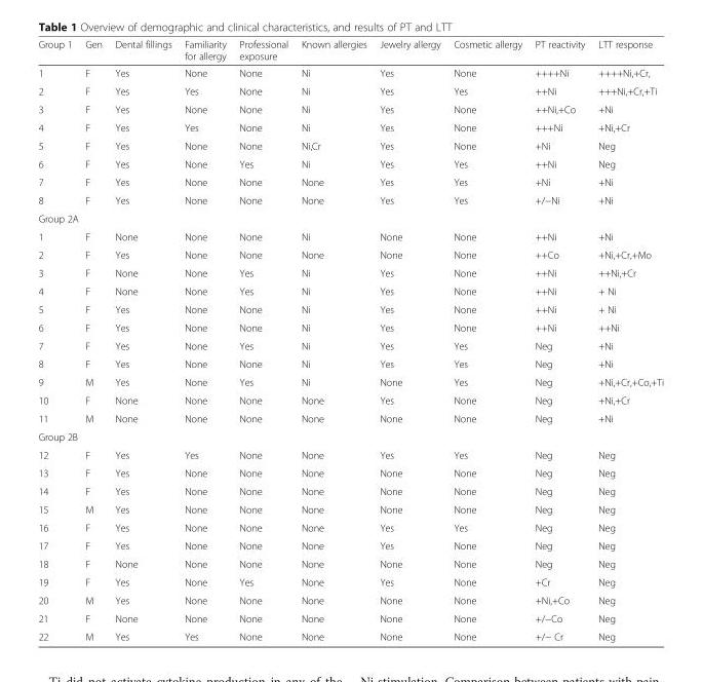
<table><thead><tr><td>Group 1</td><td>Gen</td><td>Dental fillings</td><td>Familiarity for allergy</td><td>Professional exposure</td><td>Known allergies</td><td>Jewelry allergy</td><td>Cosmetic allergy</td><td>PT reactivity</td><td>LTT response</td></tr></thead><tbody><tr><td>1</td><td>F</td><td>Yes</td><td>None</td><td>None</td><td>Ni</td><td>Yes</td><td>None</td><td>++++Ni</td><td>++++Ni,+Cr,</td></tr><tr><td>2</td><td>F</td><td>Yes</td><td>Yes</td><td>None</td><td>Ni</td><td>Yes</td><td>Yes</td><td>++Ni</td><td>+++Ni,+Cr,+Ti</td></tr><tr><td>3</td><td>F</td><td>Yes</td><td>None</td><td>None</td><td>Ni</td><td>Yes</td><td>None</td><td>++Ni,+Co</td><td>+Ni</td></tr><tr><td>4</td><td>F</td><td>Yes</td><td>Yes</td><td>None</td><td>Ni</td><td>Yes</td><td>None</td><td>+++Ni</td><td>+Ni,+Cr</td></tr><tr><td>5</td><td>F</td><td>Yes</td><td>None</td><td>None</td><td>Ni,Cr</td><td>Yes</td><td>None</td><td>+Ni</td><td>Neg</td></tr><tr><td>6</td><td>F</td><td>Yes</td><td>None</td><td>Yes</td><td>Ni</td><td>Yes</td><td>Yes</td><td>++Ni</td><td>Neg</td></tr><tr><td>7</td><td>F</td><td>Yes</td><td>None</td><td>None</td><td>None</td><td>Yes</td><td>Yes</td><td>+Ni</td><td>+Ni</td></tr><tr><td>8</td><td>F</td><td>Yes</td><td>None</td><td>None</td><td>None</td><td>Yes</td><td>Yes</td><td>+/−Ni</td><td>+Ni</td></tr><tr><td colspan="10">Group 2A</td></tr><tr><td>1</td><td>F</td><td>None</td><td>None</td><td>None</td><td>Ni</td><td>None</td><td>None</td><td>++Ni</td><td>+Ni</td></tr><tr><td>2</td><td>F</td><td>Yes</td><td>None</td><td>None</td><td>None</td><td>None</td><td>None</td><td>++Co</td><td>+Ni,+Cr,+Mo</td></tr><tr><td>3</td><td>F</td><td>None</td><td>None</td><td>Yes</td><td>Ni</td><td>Yes</td><td>None</td><td>++Ni</td><td>++Ni,+Cr</td></tr><tr><td>4</td><td>F</td><td>None</td><td>None</td><td>Yes</td><td>Ni</td><td>Yes</td><td>None</td><td>++Ni</td><td>+ Ni</td></tr><tr><td>5</td><td>F</td><td>Yes</td><td>None</td><td>None</td><td>Ni</td><td>Yes</td><td>None</td><td>++Ni</td><td>+ Ni</td></tr><tr><td>6</td><td>F</td><td>Yes</td><td>None</td><td>None</td><td>Ni</td><td>Yes</td><td>None</td><td>++Ni</td><td>++Ni</td></tr><tr><td>7</td><td>F</td><td>Yes</td><td>None</td><td>Yes</td><td>Ni</td><td>Yes</td><td>Yes</td><td>Neg</td><td>+Ni</td></tr><tr><td>8</td><td>F</td><td>Yes</td><td>None</td><td>None</td><td>Ni</td><td>Yes</td><td>Yes</td><td>Neg</td><td>+Ni</td></tr><tr><td>9</td><td>M</td><td>Yes</td><td>None</td><td>Yes</td><td>Ni</td><td>None</td><td>Yes</td><td>Neg</td><td>+Ni,+Cr,+Co,+Ti</td></tr><tr><td>10</td><td>F</td><td>None</td><td>None</td><td>None</td><td>None</td><td>Yes</td><td>None</td><td>Neg</td><td>+Ni,+Cr</td></tr><tr><td>11</td><td>M</td><td>None</td><td>None</td><td>None</td><td>None</td><td>None</td><td>None</td><td>Neg</td><td>+Ni</td></tr><tr><td colspan="10">Group 2B</td></tr><tr><td>12</td><td>F</td><td>Yes</td><td>Yes</td><td>None</td><td>None</td><td>Yes</td><td>Yes</td><td>Neg</td><td>Neg</td></tr><tr><td>13</td><td>F</td><td>Yes</td><td>None</td><td>None</td><td>None</td><td>None</td><td>None</td><td>Neg</td><td>Neg</td></tr><tr><td>14</td><td>F</td><td>Yes</td><td>None</td><td>None</td><td>None</td><td>None</td><td>None</td><td>Neg</td><td>Neg</td></tr><tr><td>15</td><td>M</td><td>Yes</td><td>None</td><td>None</td><td>None</td><td>None</td><td>None</td><td>Neg</td><td>Neg</td></tr><tr><td>16</td><td>F</td><td>Yes</td><td>None</td><td>None</td><td>None</td><td>Yes</td><td>Yes</td><td>Neg</td><td>Neg</td></tr><tr><td>17</td><td>F</td><td>Yes</td><td>None</td><td>None</td><td>None</td><td>Yes</td><td>None</td><td>Neg</td><td>Neg</td></tr><tr><td>18</td><td>F</td><td>None</td><td>None</td><td>None</td><td>None</td><td>None</td><td>None</td><td>Neg</td><td>Neg</td></tr><tr><td>19</td><td>F</td><td>Yes</td><td>None</td><td>Yes</td><td>None</td><td>Yes</td><td>None</td><td>+Cr</td><td>Neg</td></tr><tr><td>20</td><td>M</td><td>Yes</td><td>None</td><td>None</td><td>None</td><td>None</td><td>None</td><td>+Ni,+Co</td><td>Neg</td></tr><tr><td>21</td><td>F</td><td>None</td><td>None</td><td>None</td><td>None</td><td>None</td><td>None</td><td>+/−Co</td><td>Neg</td></tr><tr><td>22</td><td>M</td><td>Yes</td><td>Yes</td><td>None</td><td>None</td><td>None</td><td>None</td><td>+/− Cr</td><td>Neg</td></tr></tbody></table>